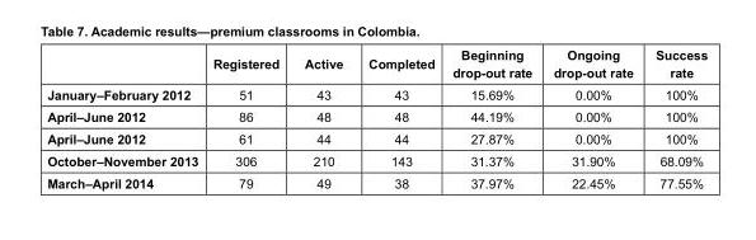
<table><thead><tr><td></td><td>Registered</td><td>Active</td><td>Completed</td><td>Beginning drop-out rate</td><td>Ongoing drop-out rate</td><td>Success rate</td></tr></thead><tbody><tr><td>January–February 2012</td><td>51</td><td>43</td><td>43</td><td>15.69%</td><td>0.00%</td><td>100%</td></tr><tr><td>April–June 2012</td><td>86</td><td>48</td><td>48</td><td>44.19%</td><td>0.00%</td><td>100%</td></tr><tr><td>April–June 2012</td><td>61</td><td>44</td><td>44</td><td>27.87%</td><td>0.00%</td><td>100%</td></tr><tr><td>October–November 2013</td><td>306</td><td>210</td><td>143</td><td>31.37%</td><td>31.90%</td><td>68.09%</td></tr><tr><td>March–April 2014</td><td>79</td><td>49</td><td>38</td><td>37.97%</td><td>22.45%</td><td>77.55%</td></tr></tbody></table>